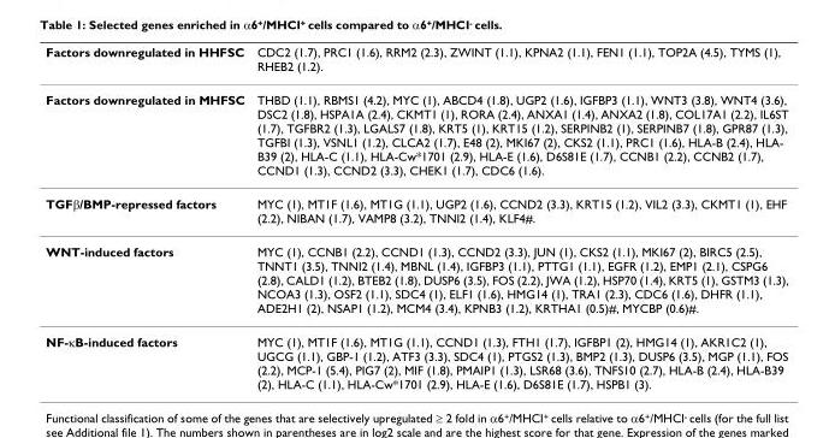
<table><tbody><tr><td>Factors downregulated in HHFSC</td><td>CDC2 (1.7), PRC1 (1.6), RRM2 (2.3), ZWINT (1.1), KPNA2 (1.1), FEN1 (1.1), TOP2A (4.5), TYMS (1), RHEB2 (1.2).</td></tr><tr><td>Factors downregulated in MHFSC</td><td>THBD (1.1), RBMS1 (4.2), MYC (1), ABCD4 (1.8), UGP2 (1.6), IGFBP3 (1.1), WNT3 (3.8), WNT4 (3.6), DSC2 (1.8), HSPA1A (2.4), CKMT1 (1), RORA (2.4), ANXA1 (1.4), ANXA2 (1.8), COL17A1 (2.2), IL6ST (1.7), TGFBR2 (1.3), LGALS7 (1.8), KRT5 (1), KRT15 (1.2), SERPINB2 (1), SERPINB7 (1.8), GPR87 (1.3), TGFBI (1.3), VSNL1 (1.2), CLCA2 (1.7), E48 (2), MKI67 (2), CKS2 (1.1), PRC1 (1.6), HLA-B (2.4), HLA- B39 (2), HLA-C (1.1), HLA-Cw*1701 (2.9), HLA-E (1.6), D6S81E (1.7), CCNB1 (2.2), CCNB2 (1.7), CCND1 (1.3), CCND2 (3.3), CHEK1 (1.7), CDC6 (1.6).</td></tr><tr><td>TGFβ/BMP-repressed factors</td><td>MYC (1), MT1F (1.6), MT1G (1.1), UGP2 (1.6), CCND2 (3.3), KRT15 (1.2), VIL2 (3.3), CKMT1 (1), EHF (2.2), NIBAN (1.7), VAMP8 (3.2), TNNI2 (1.4), KLF4#.</td></tr><tr><td>WNT-induced factors</td><td>MYC (1), CCNB1 (2.2), CCND1 (1.3), CCND2 (3.3), JUN (1), CKS2 (1.1), MKI67 (2), BIRC5 (2.5), TNNT1 (3.5), TNNI2 (1.4), MBNL (1.4), IGFBP3 (1.1), PTTG1 (1.1), EGFR (1.2), EMP1 (2.1), CSPG6 (2.8), CALD1 (1.2), BTEB2 (1.8), DUSP6 (3.5), FOS (2.2), JWA (1.2), HSP70 (1.4), KRT5 (1), GSTM3 (1.3), NCOA3 (1.3), OSF2 (1.1), SDC4 (1), ELF1 (1.6), HMG14 (1), TRA1 (2.3), CDC6 (1.6), DHFR (1.1), ADE2H1 (2), NSAP1 (1.2), MCM4 (3.4), KPNB3 (1.2), KRTHA1 (0.5)#, MYCBP (0.6)#.</td></tr><tr><td>NF-κB-induced factors</td><td>MYC (1), MT1F (1.6), MT1G (1.1), CCND1 (1.3), FTH1 (1.7), IGFBP1 (2), HMG14 (1), AKR1C2 (1), UGCG (1.1), GBP-1 (1.2), ATF3 (3.3), SDC4 (1), PTGS2 (1.3), BMP2 (1.3), DUSP6 (3.5), MGP (1.1), FOS (2.2), MCP-1 (5.4), PIG7 (2), MIF (1.8), PMAIP1 (1.3), LSR68 (3.6), TNFS10 (2.7), HLA-B (2.4), HLA-B39 (2), HLA-C (1.1), HLA-Cw*1701 (2.9), HLA-E (1.6), D6S81E (1.7), HSPB1 (3).</td></tr></tbody></table>